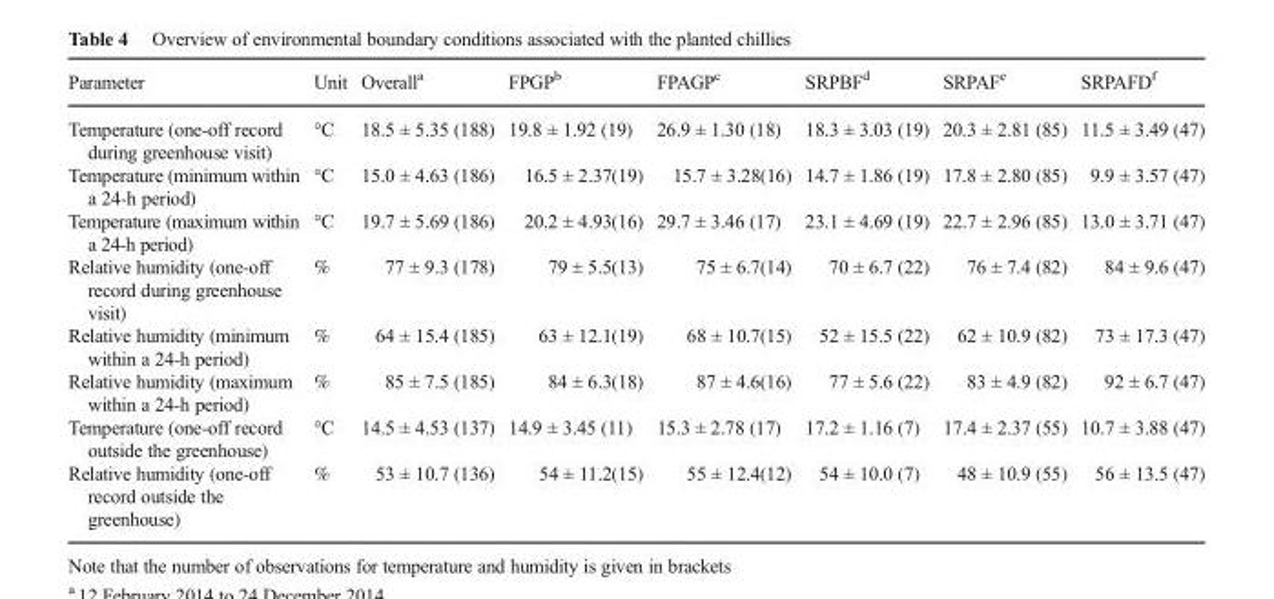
<table><thead><tr><td>Parameter</td><td>Unit</td><td>Overall<sup>a</sup></td><td>FPGP<sup>b</sup></td><td>FPAGP<sup>c</sup></td><td>SRPBF<sup>d</sup></td><td>SRPAF<sup>e</sup></td><td>SRPAFD<sup>f</sup></td></tr></thead><tbody><tr><td>Temperature (one-off record during greenhouse visit)</td><td>°C</td><td>18.5 ± 5.35 (188)</td><td>19.8 ± 1.92 (19)</td><td>26.9 ± 1.30 (18)</td><td>18.3 ± 3.03 (19)</td><td>20.3 ± 2.81 (85)</td><td>11.5 ± 3.49 (47)</td></tr><tr><td>Temperature (minimum within a 24-h period)</td><td>°C</td><td>15.0 ± 4.63 (186)</td><td>16.5 ± 2.37(19)</td><td>15.7 ± 3.28(16)</td><td>14.7 ± 1.86 (19)</td><td>17.8 ± 2.80 (85)</td><td>9.9 ± 3.57 (47)</td></tr><tr><td>Temperature (maximum within a 24-h period)</td><td>°C</td><td>19.7 ± 5.69 (186)</td><td>20.2 ± 4.93(16)</td><td>29.7 ± 3.46 (17)</td><td>23.1 ± 4.69 (19)</td><td>22.7 ± 2.96 (85)</td><td>13.0 ± 3.71 (47)</td></tr><tr><td>Relative humidity (one-off record during greenhouse visit)</td><td>%</td><td>77 ± 9.3 (178)</td><td>79 ± 5.5(13)</td><td>75 ± 6.7(14)</td><td>70 ± 6.7 (22)</td><td>76 ± 7.4 (82)</td><td>84 ± 9.6 (47)</td></tr><tr><td>Relative humidity (minimum within a 24-h period)</td><td>%</td><td>64 ± 15.4 (185)</td><td>63 ± 12.1(19)</td><td>68 ± 10.7(15)</td><td>52 ± 15.5 (22)</td><td>62 ± 10.9 (82)</td><td>73 ± 17.3 (47)</td></tr><tr><td>Relative humidity (maximum within a 24-h period)</td><td>%</td><td>85 ± 7.5 (185)</td><td>84 ± 6.3(18)</td><td>87 ± 4.6(16)</td><td>77 ± 5.6 (22)</td><td>83 ± 4.9 (82)</td><td>92 ± 6.7 (47)</td></tr><tr><td>Temperature (one-off record outside the greenhouse)</td><td>°C</td><td>14.5 ± 4.53 (137)</td><td>14.9 ± 3.45 (11)</td><td>15.3 ± 2.78 (17)</td><td>17.2 ± 1.16 (7)</td><td>17.4 ± 2.37 (55)</td><td>10.7 ± 3.88 (47)</td></tr><tr><td>Relative humidity (one-off record outside the greenhouse)</td><td>%</td><td>53 ± 10.7 (136)</td><td>54 ± 11.2(15)</td><td>55 ± 12.4(12)</td><td>54 ± 10.0 (7)</td><td>48 ± 10.9 (55)</td><td>56 ± 13.5 (47)</td></tr></tbody></table>